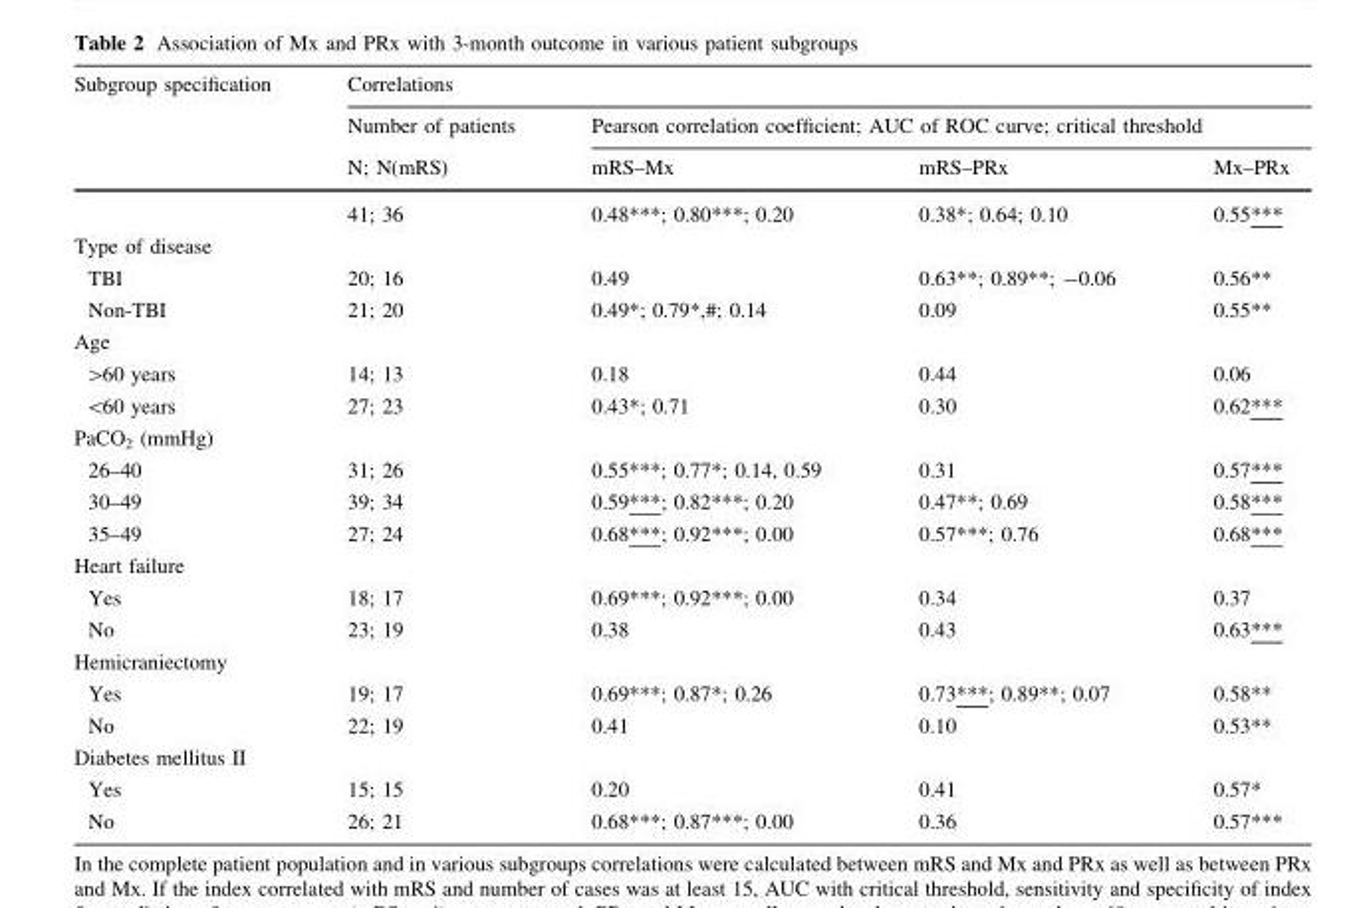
<table><thead><tr><td rowspan="3">Subgroup specification</td><td colspan="4">Correlations</td></tr><tr><td rowspan="2">Number of patients N; N(mRS)</td><td colspan="3">Pearson correlation coefficient; AUC of ROC curve; critical threshold</td></tr><tr><td>mRS–Mx</td><td>mRS–PRx</td><td>Mx–PRx</td></tr></thead><tbody><tr><td></td><td>41; 36</td><td>0.48***; 0.80***; 0.20</td><td>0.38*; 0.64; 0.10</td><td>0.55***</td></tr><tr><td colspan="5">Type of disease</td></tr><tr><td>TBI</td><td>20; 16</td><td>0.49</td><td>0.63**; 0.89**; -0.06</td><td>0.56**</td></tr><tr><td>Non-TBI</td><td>21; 20</td><td>0.49*; 0.79*,#; 0.14</td><td>0.09</td><td>0.55**</td></tr><tr><td colspan="5">Age</td></tr><tr><td>&gt;60 years</td><td>14; 13</td><td>0.18</td><td>0.44</td><td>0.06</td></tr><tr><td>&lt;60 years</td><td>27; 23</td><td>0.43*; 0.71</td><td>0.30</td><td>0.62***</td></tr><tr><td colspan="5">PaCO<sub>2</sub> (mmHg)</td></tr><tr><td>26–40</td><td>31; 26</td><td>0.55***; 0.77*; 0.14, 0.59</td><td>0.31</td><td>0.57***</td></tr><tr><td>30–49</td><td>39; 34</td><td>0.59***; 0.82***; 0.20</td><td>0.47**; 0.69</td><td>0.58***</td></tr><tr><td>35–49</td><td>27; 24</td><td>0.68***; 0.92***; 0.00</td><td>0.57***; 0.76</td><td>0.68***</td></tr><tr><td colspan="5">Heart failure</td></tr><tr><td>Yes</td><td>18; 17</td><td>0.69***; 0.92***; 0.00</td><td>0.34</td><td>0.37</td></tr><tr><td>No</td><td>23; 19</td><td>0.38</td><td>0.43</td><td>0.63***</td></tr><tr><td colspan="5">Hemicraniectomy</td></tr><tr><td>Yes</td><td>19; 17</td><td>0.69***; 0.87*; 0.26</td><td>0.73***; 0.89**; 0.07</td><td>0.58**</td></tr><tr><td>No</td><td>22; 19</td><td>0.41</td><td>0.10</td><td>0.53**</td></tr><tr><td colspan="5">Diabetes mellitus II</td></tr><tr><td>Yes</td><td>15; 15</td><td>0.20</td><td>0.41</td><td>0.57*</td></tr><tr><td>No</td><td>26; 21</td><td>0.68***; 0.87***; 0.00</td><td>0.36</td><td>0.57***</td></tr></tbody></table>